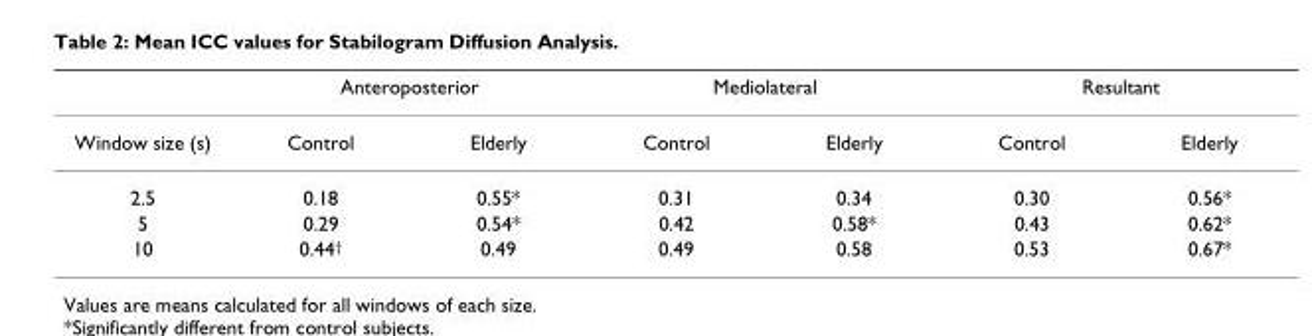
<table><thead><tr><td rowspan="2">Window size (s)</td><td colspan="2">Anteroposterior</td><td colspan="2">Mediolateral</td><td colspan="2">Resultant</td></tr><tr><td>Control</td><td>Elderly</td><td>Control</td><td>Elderly</td><td>Control</td><td>Elderly</td></tr></thead><tbody><tr><td>2.5</td><td>0.18</td><td>0.55*</td><td>0.31</td><td>0.34</td><td>0.30</td><td>0.56*</td></tr><tr><td>5</td><td>0.29</td><td>0.54*</td><td>0.42</td><td>0.58*</td><td>0.43</td><td>0.62*</td></tr><tr><td>10</td><td>0.44<sup>†</sup></td><td>0.49</td><td>0.49</td><td>0.58</td><td>0.53</td><td>0.67*</td></tr></tbody></table>